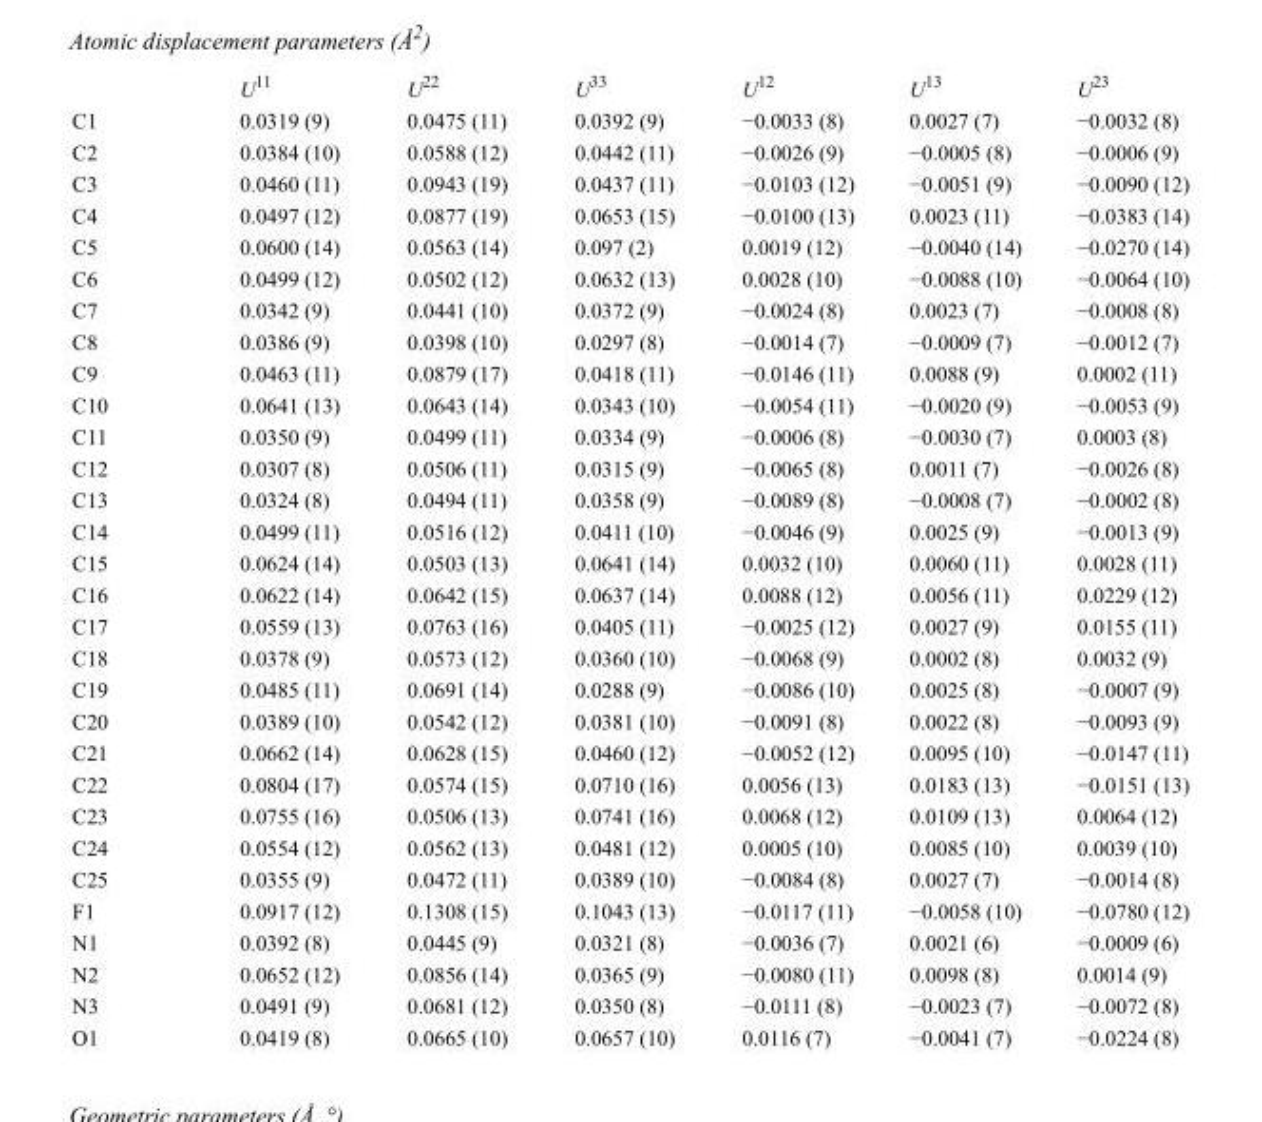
<table><thead><tr><td></td><td>U<sup>11</sup></td><td>U<sup>22</sup></td><td>U<sup>33</sup></td><td>U<sup>12</sup></td><td>U<sup>13</sup></td><td>U<sup>23</sup></td></tr></thead><tbody><tr><td>C1</td><td>0.0319 (9)</td><td>0.0475 (11)</td><td>0.0392 (9)</td><td>−0.0033 (8)</td><td>0.0027 (7)</td><td>−0.0032 (8)</td></tr><tr><td>C2</td><td>0.0384 (10)</td><td>0.0588 (12)</td><td>0.0442 (11)</td><td>−0.0026 (9)</td><td>−0.0005 (8)</td><td>−0.0006 (9)</td></tr><tr><td>C3</td><td>0.0460 (11)</td><td>0.0943 (19)</td><td>0.0437 (11)</td><td>−0.0103 (12)</td><td>−0.0051 (9)</td><td>−0.0090 (12)</td></tr><tr><td>C4</td><td>0.0497 (12)</td><td>0.0877 (19)</td><td>0.0653 (15)</td><td>−0.0100 (13)</td><td>0.0023 (11)</td><td>−0.0383 (14)</td></tr><tr><td>C5</td><td>0.0600 (14)</td><td>0.0563 (14)</td><td>0.097 (2)</td><td>0.0019 (12)</td><td>−0.0040 (14)</td><td>−0.0270 (14)</td></tr><tr><td>C6</td><td>0.0499 (12)</td><td>0.0502 (12)</td><td>0.0632 (13)</td><td>0.0028 (10)</td><td>−0.0088 (10)</td><td>−0.0064 (10)</td></tr><tr><td>C7</td><td>0.0342 (9)</td><td>0.0441 (10)</td><td>0.0372 (9)</td><td>−0.0024 (8)</td><td>0.0023 (7)</td><td>−0.0008 (8)</td></tr><tr><td>C8</td><td>0.0386 (9)</td><td>0.0398 (10)</td><td>0.0297 (8)</td><td>−0.0014 (7)</td><td>−0.0009 (7)</td><td>−0.0012 (7)</td></tr><tr><td>C9</td><td>0.0463 (11)</td><td>0.0879 (17)</td><td>0.0418 (11)</td><td>−0.0146 (11)</td><td>0.0088 (9)</td><td>0.0002 (11)</td></tr><tr><td>C10</td><td>0.0641 (13)</td><td>0.0643 (14)</td><td>0.0343 (10)</td><td>−0.0054 (11)</td><td>−0.0020 (9)</td><td>−0.0053 (9)</td></tr><tr><td>C11</td><td>0.0350 (9)</td><td>0.0499 (11)</td><td>0.0334 (9)</td><td>−0.0006 (8)</td><td>−0.0030 (7)</td><td>0.0003 (8)</td></tr><tr><td>C12</td><td>0.0307 (8)</td><td>0.0506 (11)</td><td>0.0315 (9)</td><td>−0.0065 (8)</td><td>0.0011 (7)</td><td>−0.0026 (8)</td></tr><tr><td>C13</td><td>0.0324 (8)</td><td>0.0494 (11)</td><td>0.0358 (9)</td><td>−0.0089 (8)</td><td>−0.0008 (7)</td><td>−0.0002 (8)</td></tr><tr><td>C14</td><td>0.0499 (11)</td><td>0.0516 (12)</td><td>0.0411 (10)</td><td>−0.0046 (9)</td><td>0.0025 (9)</td><td>−0.0013 (9)</td></tr><tr><td>C15</td><td>0.0624 (14)</td><td>0.0503 (13)</td><td>0.0641 (14)</td><td>0.0032 (10)</td><td>0.0060 (11)</td><td>0.0028 (11)</td></tr><tr><td>C16</td><td>0.0622 (14)</td><td>0.0642 (15)</td><td>0.0637 (14)</td><td>0.0088 (12)</td><td>0.0056 (11)</td><td>0.0229 (12)</td></tr><tr><td>C17</td><td>0.0559 (13)</td><td>0.0763 (16)</td><td>0.0405 (11)</td><td>−0.0025 (12)</td><td>0.0027 (9)</td><td>0.0155 (11)</td></tr><tr><td>C18</td><td>0.0378 (9)</td><td>0.0573 (12)</td><td>0.0360 (10)</td><td>−0.0068 (9)</td><td>0.0002 (8)</td><td>0.0032 (9)</td></tr><tr><td>C19</td><td>0.0485 (11)</td><td>0.0691 (14)</td><td>0.0288 (9)</td><td>−0.0086 (10)</td><td>0.0025 (8)</td><td>−0.0007 (9)</td></tr><tr><td>C20</td><td>0.0389 (10)</td><td>0.0542 (12)</td><td>0.0381 (10)</td><td>−0.0091 (8)</td><td>0.0022 (8)</td><td>−0.0093 (9)</td></tr><tr><td>C21</td><td>0.0662 (14)</td><td>0.0628 (15)</td><td>0.0460 (12)</td><td>−0.0052 (12)</td><td>0.0095 (10)</td><td>−0.0147 (11)</td></tr><tr><td>C22</td><td>0.0804 (17)</td><td>0.0574 (15)</td><td>0.0710 (16)</td><td>0.0056 (13)</td><td>0.0183 (13)</td><td>−0.0151 (13)</td></tr><tr><td>C23</td><td>0.0755 (16)</td><td>0.0506 (13)</td><td>0.0741 (16)</td><td>0.0068 (12)</td><td>0.0109 (13)</td><td>0.0064 (12)</td></tr><tr><td>C24</td><td>0.0554 (12)</td><td>0.0562 (13)</td><td>0.0481 (12)</td><td>0.0005 (10)</td><td>0.0085 (10)</td><td>0.0039 (10)</td></tr><tr><td>C25</td><td>0.0355 (9)</td><td>0.0472 (11)</td><td>0.0389 (10)</td><td>−0.0084 (8)</td><td>0.0027 (7)</td><td>−0.0014 (8)</td></tr><tr><td>F1</td><td>0.0917 (12)</td><td>0.1308 (15)</td><td>0.1043 (13)</td><td>−0.0117 (11)</td><td>−0.0058 (10)</td><td>−0.0780 (12)</td></tr><tr><td>N1</td><td>0.0392 (8)</td><td>0.0445 (9)</td><td>0.0321 (8)</td><td>−0.0036 (7)</td><td>0.0021 (6)</td><td>−0.0009 (6)</td></tr><tr><td>N2</td><td>0.0652 (12)</td><td>0.0856 (14)</td><td>0.0365 (9)</td><td>−0.0080 (11)</td><td>0.0098 (8)</td><td>0.0014 (9)</td></tr><tr><td>N3</td><td>0.0491 (9)</td><td>0.0681 (12)</td><td>0.0350 (8)</td><td>−0.0111 (8)</td><td>−0.0023 (7)</td><td>−0.0072 (8)</td></tr><tr><td>O1</td><td>0.0419 (8)</td><td>0.0665 (10)</td><td>0.0657 (10)</td><td>0.0116 (7)</td><td>−0.0041 (7)</td><td>−0.0224 (8)</td></tr></tbody></table>